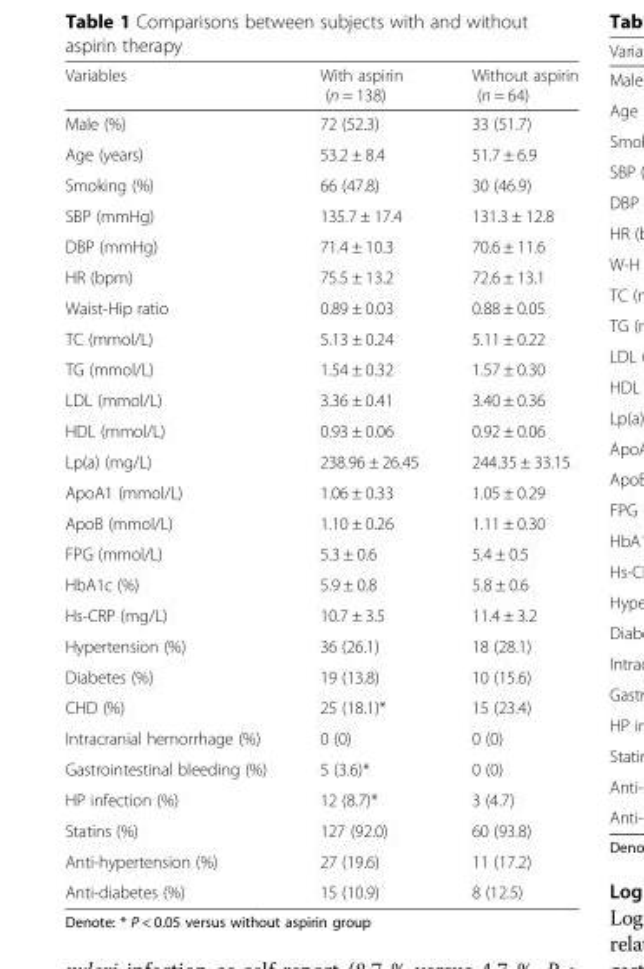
<table><thead><tr><td>Variables</td><td>With aspirin (n = 138)</td><td>Without aspirin (n = 64)</td></tr></thead><tbody><tr><td>Male (%)</td><td>72 (52.3)</td><td>33 (51.7)</td></tr><tr><td>Age (years)</td><td>53.2 ± 8.4</td><td>51.7 ± 6.9</td></tr><tr><td>Smoking (%)</td><td>66 (47.8)</td><td>30 (46.9)</td></tr><tr><td>SBP (mmHg)</td><td>135.7 ± 17.4</td><td>131.3 ± 12.8</td></tr><tr><td>DBP (mmHg)</td><td>71.4 ± 10.3</td><td>70.6 ± 11.6</td></tr><tr><td>HR (bpm)</td><td>75.5 ± 13.2</td><td>72.6 ± 13.1</td></tr><tr><td>Waist-Hip ratio</td><td>0.89 ± 0.03</td><td>0.88 ± 0.05</td></tr><tr><td>TC (mmol/L)</td><td>5.13 ± 0.24</td><td>5.11 ± 0.22</td></tr><tr><td>TG (mmol/L)</td><td>1.54 ± 0.32</td><td>1.57 ± 0.30</td></tr><tr><td>LDL (mmol/L)</td><td>3.36 ± 0.41</td><td>3.40 ± 0.36</td></tr><tr><td>HDL (mmol/L)</td><td>0.93 ± 0.06</td><td>0.92 ± 0.06</td></tr><tr><td>Lp(a) (mg/L)</td><td>238.96 ± 26.45</td><td>244.35 ± 33.15</td></tr><tr><td>ApoA1 (mmol/L)</td><td>1.06 ± 0.33</td><td>1.05 ± 0.29</td></tr><tr><td>ApoB (mmol/L)</td><td>1.10 ± 0.26</td><td>1.11 ± 0.30</td></tr><tr><td>FPG (mmol/L)</td><td>5.3 ± 0.6</td><td>5.4 ± 0.5</td></tr><tr><td>HbA1c (%)</td><td>5.9 ± 0.8</td><td>5.8 ± 0.6</td></tr><tr><td>Hs-CRP (mg/L)</td><td>10.7 ± 3.5</td><td>11.4 ± 3.2</td></tr><tr><td>Hypertension (%)</td><td>36 (26.1)</td><td>18 (28.1)</td></tr><tr><td>Diabetes (%)</td><td>19 (13.8)</td><td>10 (15.6)</td></tr><tr><td>CHD (%)</td><td>25 (18.1)*</td><td>15 (23.4)</td></tr><tr><td>Intracranial hemorrhage (%)</td><td>0 (0)</td><td>0 (0)</td></tr><tr><td>Gastrointestinal bleeding (%)</td><td>5 (3.6)*</td><td>0 (0)</td></tr><tr><td>HP infection (%)</td><td>12 (8.7)*</td><td>3 (4.7)</td></tr><tr><td>Statins (%)</td><td>127 (92.0)</td><td>60 (93.8)</td></tr><tr><td>Anti-hypertension (%)</td><td>27 (19.6)</td><td>11 (17.2)</td></tr><tr><td>Anti-diabetes (%)</td><td>15 (10.9)</td><td>8 (12.5)</td></tr></tbody></table>